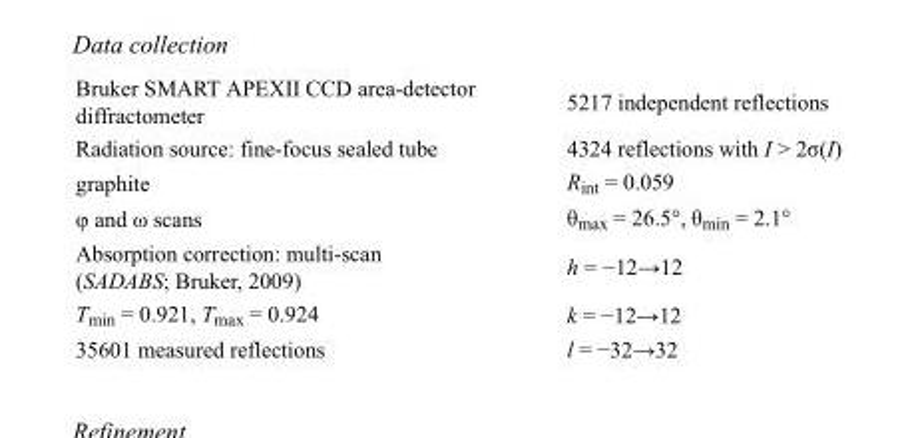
<table><tbody><tr><td>Bruker SMART APEXII CCD area-detector diffractometer</td><td>5217 independent reflections</td></tr><tr><td>Radiation source: fine-focus sealed tube</td><td>4324 reflections with I &gt; 2σ(I)</td></tr><tr><td>graphite</td><td>R<sub>int</sub> = 0.059</td></tr><tr><td>φ and ω scans</td><td>θ<sub>max</sub> = 26.5°, θ<sub>min</sub> = 2.1°</td></tr><tr><td>Absorption correction: multi-scan (SADABS; Bruker, 2009)</td><td>h = −12→12</td></tr><tr><td>T<sub>min</sub> = 0.921, T<sub>max</sub> = 0.924</td><td>k = −12→12</td></tr><tr><td>35601 measured reflections</td><td>l = −32→32</td></tr></tbody></table>